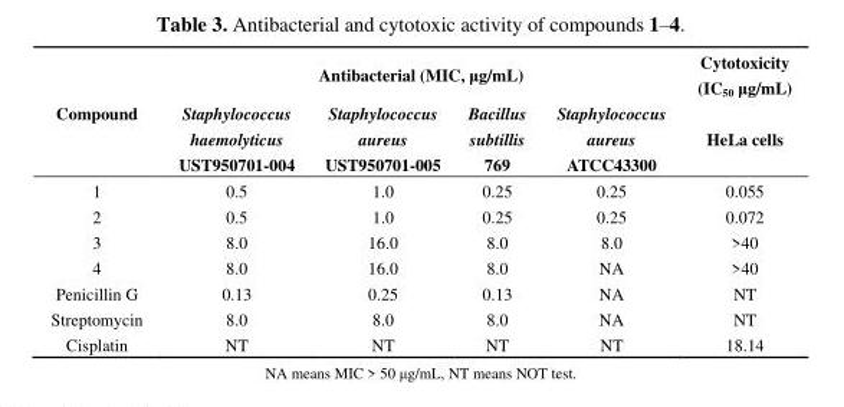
<table><thead><tr><td rowspan="2">Compound</td><td colspan="4">Antibacterial (MIC, μg/mL)</td><td rowspan="2">Cytotoxicity (IC<sub>50</sub> μg/mL) HeLa cells</td></tr><tr><td>Staphylococcus haemolyticus UST950701-004</td><td>Staphylococcus aureus UST950701-005</td><td>Bacillus subtillis 769</td><td>Staphylococcus aureus ATCC43300</td></tr></thead><tbody><tr><td>1</td><td>0.5</td><td>1.0</td><td>0.25</td><td>0.25</td><td>0.055</td></tr><tr><td>2</td><td>0.5</td><td>1.0</td><td>0.25</td><td>0.25</td><td>0.072</td></tr><tr><td>3</td><td>8.0</td><td>16.0</td><td>8.0</td><td>8.0</td><td>&gt;40</td></tr><tr><td>4</td><td>8.0</td><td>16.0</td><td>8.0</td><td>NA</td><td>&gt;40</td></tr><tr><td>Penicillin G</td><td>0.13</td><td>0.25</td><td>0.13</td><td>NA</td><td>NT</td></tr><tr><td>Streptomycin</td><td>8.0</td><td>8.0</td><td>8.0</td><td>NA</td><td>NT</td></tr><tr><td>Cisplatin</td><td>NT</td><td>NT</td><td>NT</td><td>NT</td><td>18.14</td></tr></tbody></table>